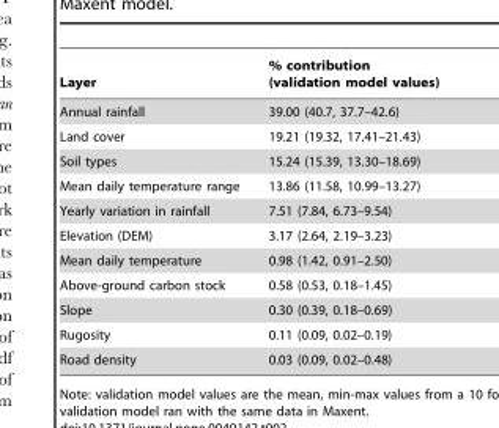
<table><thead><tr><td>Layer</td><td>% contribution (validation model values)</td></tr></thead><tbody><tr><td>Annual rainfall</td><td>39.00 (40.7, 37.7–42.6)</td></tr><tr><td>Land cover</td><td>19.21 (19.32, 17.41–21.43)</td></tr><tr><td>Soil types</td><td>15.24 (15.39, 13.30–18.69)</td></tr><tr><td>Mean daily temperature range</td><td>13.86 (11.58, 10.99–13.27)</td></tr><tr><td>Yearly variation in rainfall</td><td>7.51 (7.84, 6.73–9.54)</td></tr><tr><td>Elevation (DEM)</td><td>3.17 (2.64, 2.19–3.23)</td></tr><tr><td>Mean daily temperature</td><td>0.98 (1.42, 0.91–2.50)</td></tr><tr><td>Above-ground carbon stock</td><td>0.58 (0.53, 0.18–1.45)</td></tr><tr><td>Slope</td><td>0.30 (0.39, 0.18–0.69)</td></tr><tr><td>Rugosity</td><td>0.11 (0.09, 0.02–0.19)</td></tr><tr><td>Road density</td><td>0.03 (0.09, 0.02–0.48)</td></tr></tbody></table>